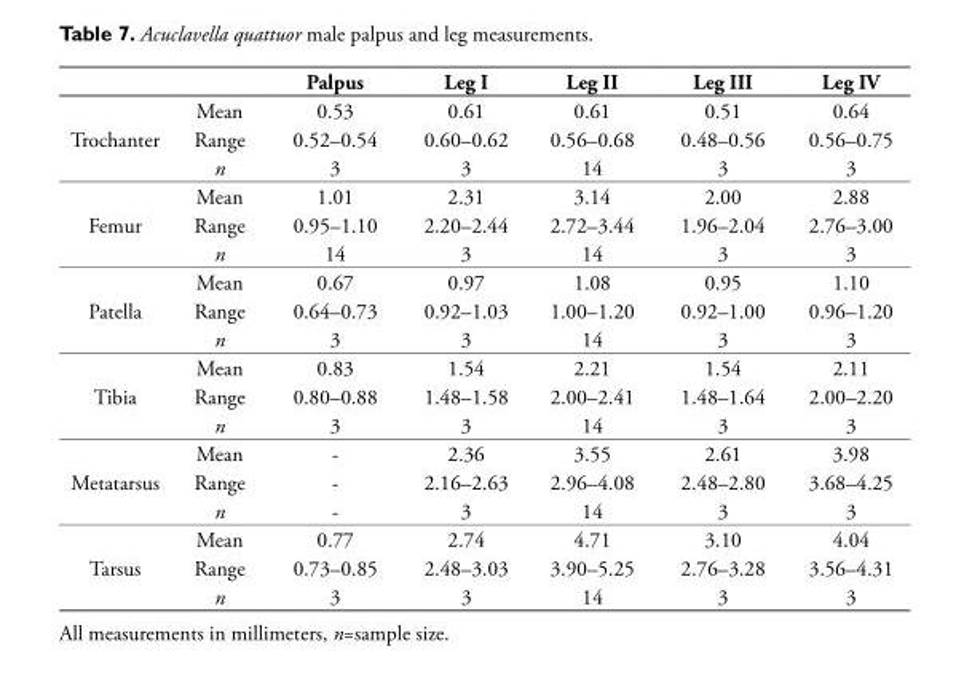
<table><thead><tr><td></td><td></td><td>Palpus</td><td>Leg I</td><td>Leg II</td><td>Leg III</td><td>Leg IV</td></tr></thead><tbody><tr><td rowspan="3">Trochanter</td><td>Mean</td><td>0.53</td><td>0.61</td><td>0.61</td><td>0.51</td><td>0.64</td></tr><tr><td>Range</td><td>0.52–0.54</td><td>0.60–0.62</td><td>0.56–0.68</td><td>0.48–0.56</td><td>0.56–0.75</td></tr><tr><td>n</td><td>3</td><td>3</td><td>14</td><td>3</td><td>3</td></tr><tr><td rowspan="3">Femur</td><td>Mean</td><td>1.01</td><td>2.31</td><td>3.14</td><td>2.00</td><td>2.88</td></tr><tr><td>Range</td><td>0.95–1.10</td><td>2.20–2.44</td><td>2.72–3.44</td><td>1.96–2.04</td><td>2.76–3.00</td></tr><tr><td>n</td><td>14</td><td>3</td><td>14</td><td>3</td><td>3</td></tr><tr><td rowspan="3">Patella</td><td>Mean</td><td>0.67</td><td>0.97</td><td>1.08</td><td>0.95</td><td>1.10</td></tr><tr><td>Range</td><td>0.64–0.73</td><td>0.92–1.03</td><td>1.00–1.20</td><td>0.92–1.00</td><td>0.96–1.20</td></tr><tr><td>n</td><td>3</td><td>3</td><td>14</td><td>3</td><td>3</td></tr><tr><td rowspan="3">Tibia</td><td>Mean</td><td>0.83</td><td>1.54</td><td>2.21</td><td>1.54</td><td>2.11</td></tr><tr><td>Range</td><td>0.80–0.88</td><td>1.48–1.58</td><td>2.00–2.41</td><td>1.48–1.64</td><td>2.00–2.20</td></tr><tr><td>n</td><td>3</td><td>3</td><td>14</td><td>3</td><td>3</td></tr><tr><td rowspan="3">Metatarsus</td><td>Mean</td><td>-</td><td>2.36</td><td>3.55</td><td>2.61</td><td>3.98</td></tr><tr><td>Range</td><td>-</td><td>2.16–2.63</td><td>2.96–4.08</td><td>2.48–2.80</td><td>3.68–4.25</td></tr><tr><td>n</td><td>-</td><td>3</td><td>14</td><td>3</td><td>3</td></tr><tr><td rowspan="3">Tarsus</td><td>Mean</td><td>0.77</td><td>2.74</td><td>4.71</td><td>3.10</td><td>4.04</td></tr><tr><td>Range</td><td>0.73–0.85</td><td>2.48–3.03</td><td>3.90–5.25</td><td>2.76–3.28</td><td>3.56–4.31</td></tr><tr><td>n</td><td>3</td><td>3</td><td>14</td><td>3</td><td>3</td></tr></tbody></table>